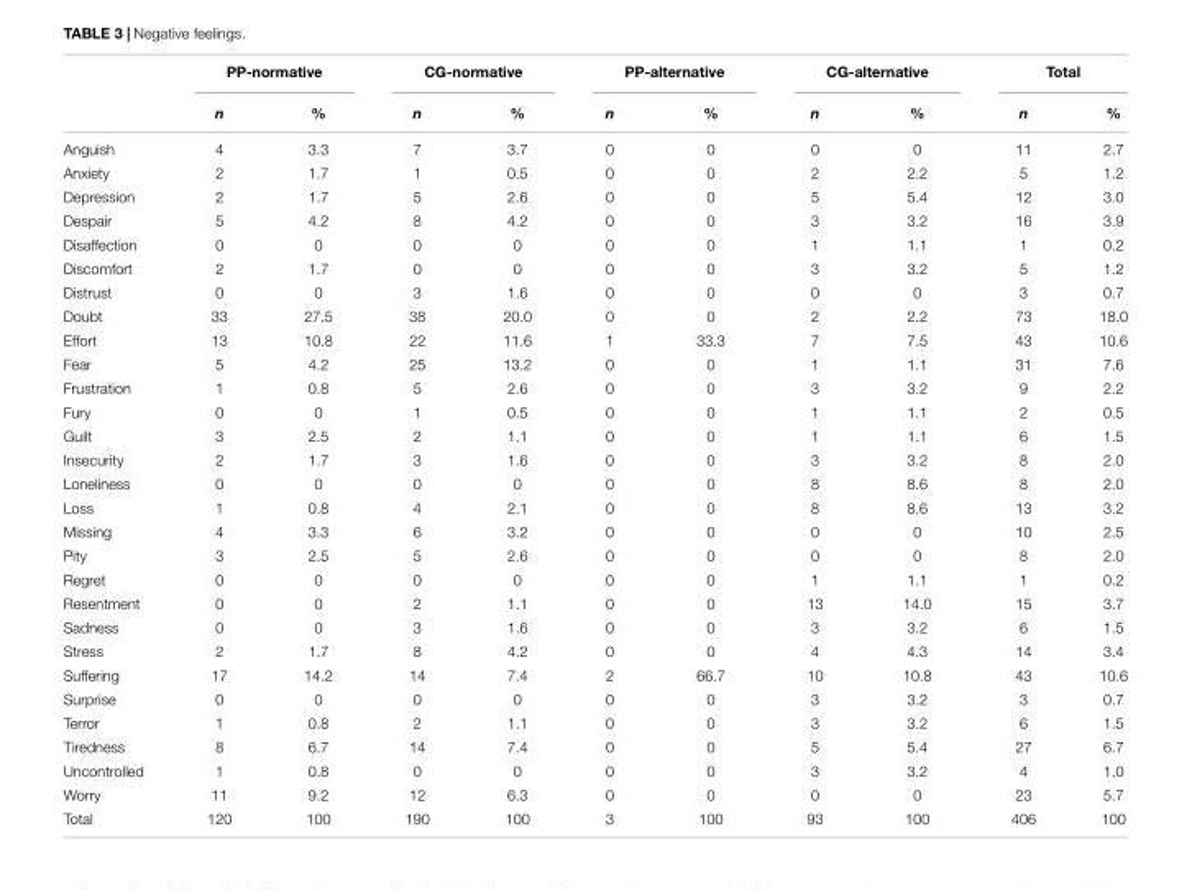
<table><thead><tr><td rowspan="2"></td><td colspan="2">PP-normative</td><td colspan="2">CG-normative</td><td colspan="2">PP-alternative</td><td colspan="2">CG-alternative</td><td colspan="2">Total</td></tr><tr><td>n</td><td>%</td><td>n</td><td>%</td><td>n</td><td>%</td><td>n</td><td>%</td><td>n</td><td>%</td></tr></thead><tbody><tr><td>Anguish</td><td>4</td><td>3.3</td><td>7</td><td>3.7</td><td>0</td><td>0</td><td>0</td><td>0</td><td>11</td><td>2.7</td></tr><tr><td>Anxiety</td><td>2</td><td>1.7</td><td>1</td><td>0.5</td><td>0</td><td>0</td><td>2</td><td>2.2</td><td>5</td><td>1.2</td></tr><tr><td>Depression</td><td>2</td><td>1.7</td><td>5</td><td>2.6</td><td>0</td><td>0</td><td>5</td><td>5.4</td><td>12</td><td>3.0</td></tr><tr><td>Despair</td><td>5</td><td>4.2</td><td>8</td><td>4.2</td><td>0</td><td>0</td><td>3</td><td>3.2</td><td>16</td><td>3.9</td></tr><tr><td>Disaffection</td><td>0</td><td>0</td><td>0</td><td>0</td><td>0</td><td>0</td><td>1</td><td>1.1</td><td>1</td><td>0.2</td></tr><tr><td>Discomfort</td><td>2</td><td>1.7</td><td>0</td><td>0</td><td>0</td><td>0</td><td>3</td><td>3.2</td><td>5</td><td>1.2</td></tr><tr><td>Distrust</td><td>0</td><td>0</td><td>3</td><td>1.6</td><td>0</td><td>0</td><td>0</td><td>0</td><td>3</td><td>0.7</td></tr><tr><td>Doubt</td><td>33</td><td>27.5</td><td>38</td><td>20.0</td><td>0</td><td>0</td><td>2</td><td>2.2</td><td>73</td><td>18.0</td></tr><tr><td>Effort</td><td>13</td><td>10.8</td><td>22</td><td>11.6</td><td>1</td><td>33.3</td><td>7</td><td>7.5</td><td>43</td><td>10.6</td></tr><tr><td>Fear</td><td>5</td><td>4.2</td><td>25</td><td>13.2</td><td>0</td><td>0</td><td>1</td><td>1.1</td><td>31</td><td>7.6</td></tr><tr><td>Frustration</td><td>1</td><td>0.8</td><td>5</td><td>2.6</td><td>0</td><td>0</td><td>3</td><td>3.2</td><td>9</td><td>2.2</td></tr><tr><td>Fury</td><td>0</td><td>0</td><td>1</td><td>0.5</td><td>0</td><td>0</td><td>1</td><td>1.1</td><td>2</td><td>0.5</td></tr><tr><td>Guilt</td><td>3</td><td>2.5</td><td>2</td><td>1.1</td><td>0</td><td>0</td><td>1</td><td>1.1</td><td>6</td><td>1.5</td></tr><tr><td>Insecurity</td><td>2</td><td>1.7</td><td>3</td><td>1.6</td><td>0</td><td>0</td><td>3</td><td>3.2</td><td>8</td><td>2.0</td></tr><tr><td>Loneliness</td><td>0</td><td>0</td><td>0</td><td>0</td><td>0</td><td>0</td><td>8</td><td>8.6</td><td>8</td><td>2.0</td></tr><tr><td>Loss</td><td>1</td><td>0.8</td><td>4</td><td>2.1</td><td>0</td><td>0</td><td>8</td><td>8.6</td><td>13</td><td>3.2</td></tr><tr><td>Missing</td><td>4</td><td>3.3</td><td>6</td><td>3.2</td><td>0</td><td>0</td><td>0</td><td>0</td><td>10</td><td>2.5</td></tr><tr><td>Pity</td><td>3</td><td>2.5</td><td>5</td><td>2.6</td><td>0</td><td>0</td><td>0</td><td>0</td><td>8</td><td>2.0</td></tr><tr><td>Regret</td><td>0</td><td>0</td><td>0</td><td>0</td><td>0</td><td>0</td><td>1</td><td>1.1</td><td>1</td><td>0.2</td></tr><tr><td>Resentment</td><td>0</td><td>0</td><td>2</td><td>1.1</td><td>0</td><td>0</td><td>13</td><td>14.0</td><td>15</td><td>3.7</td></tr><tr><td>Sadness</td><td>0</td><td>0</td><td>3</td><td>1.6</td><td>0</td><td>0</td><td>3</td><td>3.2</td><td>6</td><td>1.5</td></tr><tr><td>Stress</td><td>2</td><td>1.7</td><td>8</td><td>4.2</td><td>0</td><td>0</td><td>4</td><td>4.3</td><td>14</td><td>3.4</td></tr><tr><td>Suffering</td><td>17</td><td>14.2</td><td>14</td><td>7.4</td><td>2</td><td>66.7</td><td>10</td><td>10.8</td><td>43</td><td>10.6</td></tr><tr><td>Surprise</td><td>0</td><td>0</td><td>0</td><td>0</td><td>0</td><td>0</td><td>3</td><td>3.2</td><td>3</td><td>0.7</td></tr><tr><td>Terror</td><td>1</td><td>0.8</td><td>2</td><td>1.1</td><td>0</td><td>0</td><td>3</td><td>3.2</td><td>6</td><td>1.5</td></tr><tr><td>Tiredness</td><td>8</td><td>6.7</td><td>14</td><td>7.4</td><td>0</td><td>0</td><td>5</td><td>5.4</td><td>27</td><td>6.7</td></tr><tr><td>Uncontrolled</td><td>1</td><td>0.8</td><td>0</td><td>0</td><td>0</td><td>0</td><td>3</td><td>3.2</td><td>4</td><td>1.0</td></tr><tr><td>Worry</td><td>11</td><td>9.2</td><td>12</td><td>6.3</td><td>0</td><td>0</td><td>0</td><td>0</td><td>23</td><td>5.7</td></tr><tr><td>Total</td><td>120</td><td>100</td><td>190</td><td>100</td><td>3</td><td>100</td><td>93</td><td>100</td><td>406</td><td>100</td></tr></tbody></table>